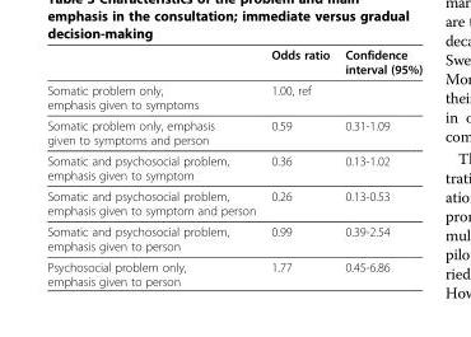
<table><thead><tr><td></td><td>Odds ratio</td><td>Confidence interval (95%)</td></tr></thead><tbody><tr><td>Somatic problem only, emphasis given to symptoms</td><td>1.00, ref</td><td></td></tr><tr><td>Somatic problem only, emphasis given to symptoms and person</td><td>0.59</td><td>0.31-1.09</td></tr><tr><td>Somatic and psychosocial problem, emphasis given to symptom</td><td>0.36</td><td>0.13-1.02</td></tr><tr><td>Somatic and psychosocial problem, emphasis given to symptom and person</td><td>0.26</td><td>0.13-0.53</td></tr><tr><td>Somatic and psychosocial problem, emphasis given to person</td><td>0.99</td><td>0.39-2.54</td></tr><tr><td>Psychosocial problem only, emphasis given to person</td><td>1.77</td><td>0.45-6.86</td></tr></tbody></table>